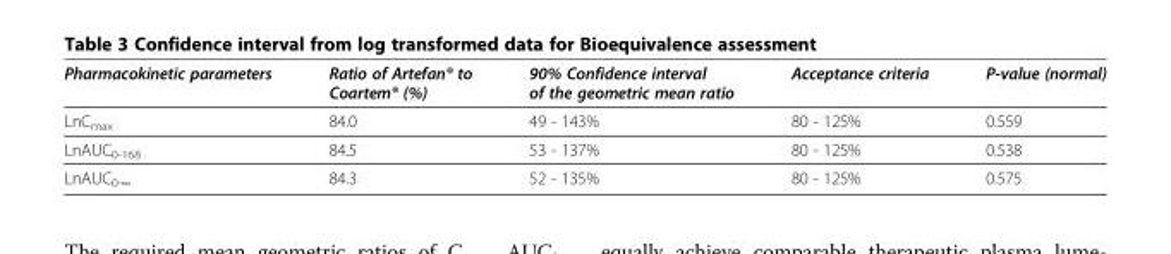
<table><thead><tr><td>Pharmacokinetic parameters</td><td>Ratio of Artefan® to Coartem® (%)</td><td>90% Confidence interval of the geometric mean ratio</td><td>Acceptance criteria</td><td>P-value (normal)</td></tr></thead><tbody><tr><td>LnC<sub>max</sub></td><td>84.0</td><td>49 - 143%</td><td>80 - 125%</td><td>0.559</td></tr><tr><td>LnAUC<sub>0-168</sub></td><td>84.5</td><td>53 - 137%</td><td>80 - 125%</td><td>0.538</td></tr><tr><td>LnAUC<sub>0-∞</sub></td><td>84.3</td><td>52 - 135%</td><td>80 - 125%</td><td>0.575</td></tr></tbody></table>